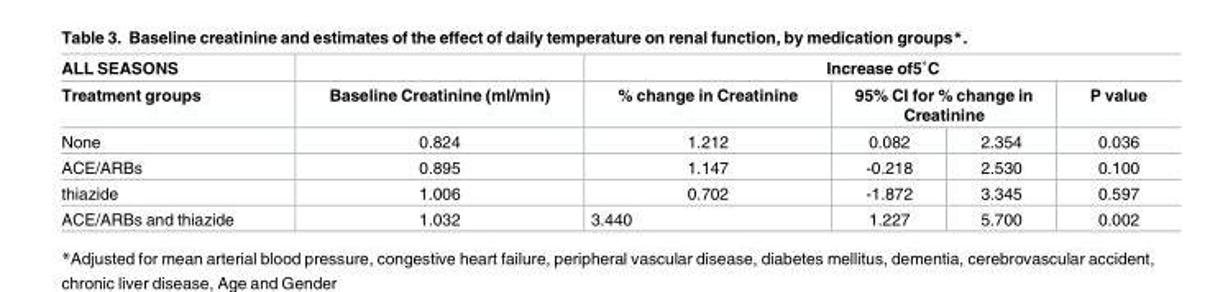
<table><thead><tr><td rowspan="3">ALL SEASONS Treatment groups None</td><td rowspan="3">Baseline Creatinine (ml/min) 0.824</td><td colspan="4">Increase of5˚C</td></tr><tr><td rowspan="2">% change in Creatinine 1.212</td><td colspan="2">95% CI for % change in Creatinine</td><td rowspan="2">P value 0.036</td></tr><tr><td>0.082</td><td>2.354</td></tr></thead><tbody><tr><td>ACE/ARBs</td><td>0.895</td><td>1.147</td><td>-0.218</td><td>2.530</td><td>0.100</td></tr><tr><td>thiazide</td><td>1.006</td><td>0.702</td><td>-1.872</td><td>3.345</td><td>0.597</td></tr><tr><td>ACE/ARBs and thiazide</td><td>1.032</td><td>3.440</td><td>1.227</td><td>5.700</td><td>0.002</td></tr></tbody></table>